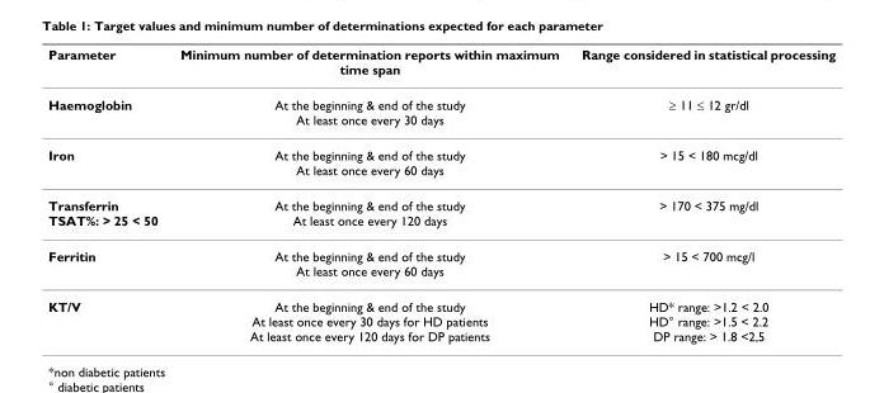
<table><thead><tr><td>Parameter</td><td>Minimum number of determination reports within maximum time span</td><td>Range considered in statistical processing</td></tr></thead><tbody><tr><td>Haemoglobin</td><td>At the beginning &amp; end of the study At least once every 30 days</td><td>≥ 11 ≤ 12 gr/dl</td></tr><tr><td>Iron</td><td>At the beginning &amp; end of the study At least once every 60 days</td><td>&gt; 15 &lt; 180 mcg/dl</td></tr><tr><td>Transferrin TSAT%: &gt; 25 &lt; 50</td><td>At the beginning &amp; end of the study At least once every 120 days</td><td>&gt; 170 &lt; 375 mg/dl</td></tr><tr><td>Ferritin</td><td>At the beginning &amp; end of the study At least once every 60 days</td><td>&gt; 15 &lt; 700 mcg/l</td></tr><tr><td>KT/V</td><td>At the beginning &amp; end of the study At least once every 30 days for HD patients At least once every 120 days for DP patients</td><td>HD* range: &gt;1.2 &lt; 2.0 HD° range: &gt;1.5 &lt; 2.2 DP range: &gt; 1.8 &lt;2,5</td></tr></tbody></table>